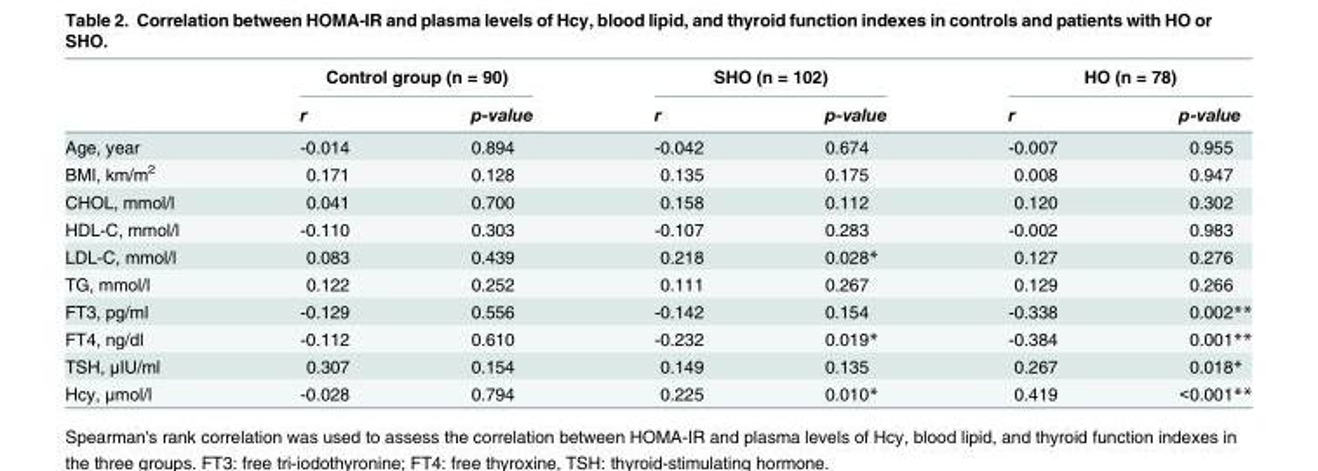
<table><thead><tr><td rowspan="2"></td><td colspan="2">Control group (n = 90)</td><td colspan="2">SHO (n = 102)</td><td colspan="2">HO (n = 78)</td></tr><tr><td>r</td><td>p-value</td><td>r</td><td>p-value</td><td>r</td><td>p-value</td></tr></thead><tbody><tr><td>Age, year</td><td>-0.014</td><td>0.894</td><td>-0.042</td><td>0.674</td><td>-0.007</td><td>0.955</td></tr><tr><td>BMI, km/m<sup>2</sup></td><td>0.171</td><td>0.128</td><td>0.135</td><td>0.175</td><td>0.008</td><td>0.947</td></tr><tr><td>CHOL, mmol/l</td><td>0.041</td><td>0.700</td><td>0.158</td><td>0.112</td><td>0.120</td><td>0.302</td></tr><tr><td>HDL-C, mmol/l</td><td>-0.110</td><td>0.303</td><td>-0.107</td><td>0.283</td><td>-0.002</td><td>0.983</td></tr><tr><td>LDL-C, mmol/l</td><td>0.083</td><td>0.439</td><td>0.218</td><td>0.028*</td><td>0.127</td><td>0.276</td></tr><tr><td>TG, mmol/l</td><td>0.122</td><td>0.252</td><td>0.111</td><td>0.267</td><td>0.129</td><td>0.266</td></tr><tr><td>FT3, pg/ml</td><td>-0.129</td><td>0.556</td><td>-0.142</td><td>0.154</td><td>-0.338</td><td>0.002**</td></tr><tr><td>FT4, ng/dl</td><td>-0.112</td><td>0.610</td><td>-0.232</td><td>0.019*</td><td>-0.384</td><td>0.001**</td></tr><tr><td>TSH, μIU/ml</td><td>0.307</td><td>0.154</td><td>0.149</td><td>0.135</td><td>0.267</td><td>0.018*</td></tr><tr><td>Hcy, μmol/l</td><td>-0.028</td><td>0.794</td><td>0.225</td><td>0.010*</td><td>0.419</td><td>&lt;0.001**</td></tr></tbody></table>